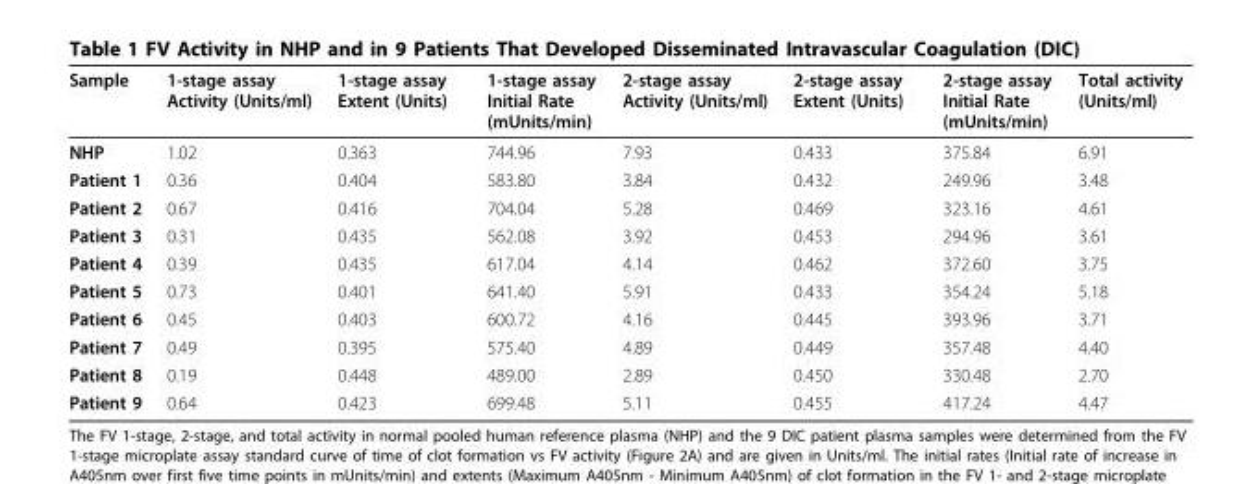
<table><thead><tr><td>Sample</td><td>1-stage assay Activity (Units/ml)</td><td>1-stage assay Extent (Units)</td><td>1-stage assay Initial Rate (mUnits/min)</td><td>2-stage assay Activity (Units/ml)</td><td>2-stage assay Extent (Units)</td><td>2-stage assay Initial Rate (mUnits/min)</td><td>Total activity (Units/ml)</td></tr></thead><tbody><tr><td>NHP</td><td>1.02</td><td>0.363</td><td>744.96</td><td>7.93</td><td>0.433</td><td>375.84</td><td>6.91</td></tr><tr><td>Patient 1</td><td>0.36</td><td>0.404</td><td>583.80</td><td>3.84</td><td>0.432</td><td>249.96</td><td>3.48</td></tr><tr><td>Patient 2</td><td>0.67</td><td>0.416</td><td>704.04</td><td>5.28</td><td>0.469</td><td>323.16</td><td>4.61</td></tr><tr><td>Patient 3</td><td>0.31</td><td>0.435</td><td>562.08</td><td>3.92</td><td>0.453</td><td>294.96</td><td>3.61</td></tr><tr><td>Patient 4</td><td>0.39</td><td>0.435</td><td>617.04</td><td>4.14</td><td>0.462</td><td>372.60</td><td>3.75</td></tr><tr><td>Patient 5</td><td>0.73</td><td>0.401</td><td>641.40</td><td>5.91</td><td>0.433</td><td>354.24</td><td>5.18</td></tr><tr><td>Patient 6</td><td>0.45</td><td>0.403</td><td>600.72</td><td>4.16</td><td>0.445</td><td>393.96</td><td>3.71</td></tr><tr><td>Patient 7</td><td>0.49</td><td>0.395</td><td>575.40</td><td>4.89</td><td>0.449</td><td>357.48</td><td>4.40</td></tr><tr><td>Patient 8</td><td>0.19</td><td>0.448</td><td>489.00</td><td>2.89</td><td>0.450</td><td>330.48</td><td>2.70</td></tr><tr><td>Patient 9</td><td>0.64</td><td>0.423</td><td>699.48</td><td>5.11</td><td>0.455</td><td>417.24</td><td>4.47</td></tr></tbody></table>